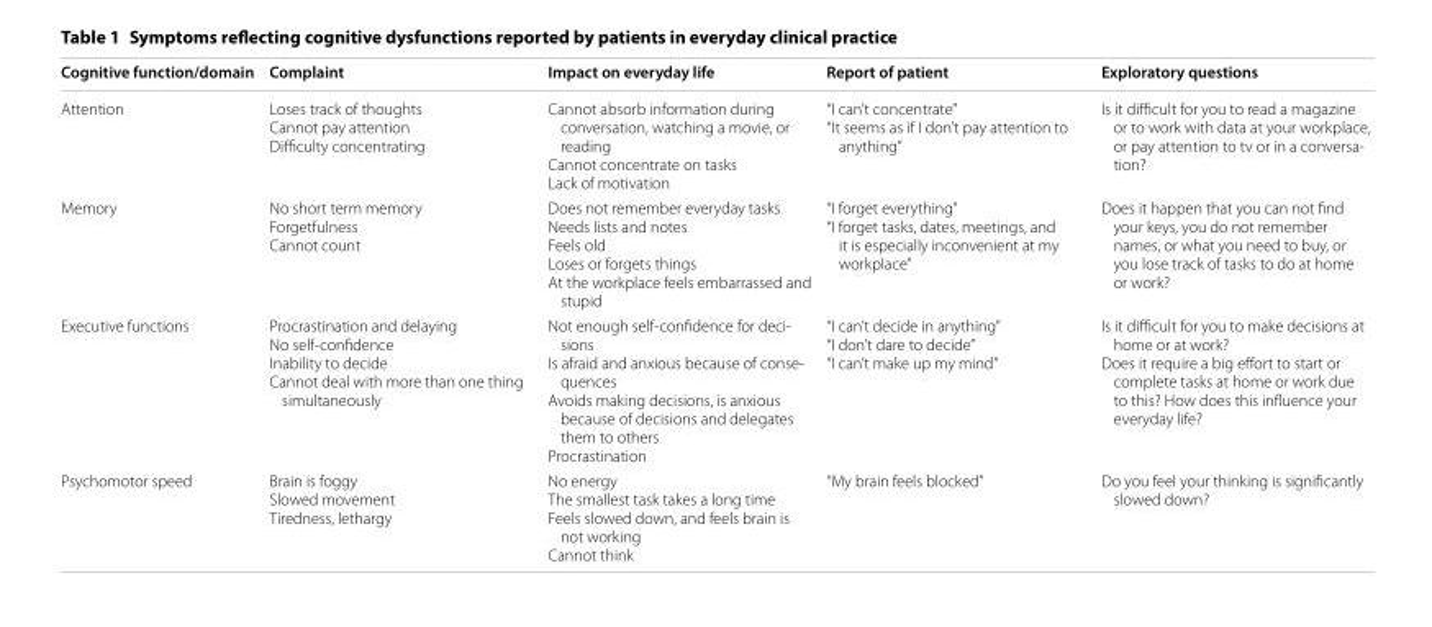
<table><thead><tr><td>Cognitive function/domain</td><td>Complaint</td><td>Impact on everyday life</td><td>Report of patient</td><td>Exploratory questions</td></tr></thead><tbody><tr><td>Attention</td><td>Loses track of thoughts Cannot pay attention Difficulty concentrating</td><td>Cannot absorb information during conversation, watching a movie, or reading Cannot concentrate on tasks Lack of motivation</td><td>“I can’t concentrate” “It seems as if I don’t pay attention to anything”</td><td>Is it difficult for you to read a magazine or to work with data at your workplace, or pay attention to tv or in a conversa- tion?</td></tr><tr><td>Memory</td><td>No short term memory Forgetfulness Cannot count</td><td>Does not remember everyday tasks Needs lists and notes Feels old Loses or forgets things At the workplace feels embarrassed and stupid</td><td>“I forget everything” “I forget tasks, dates, meetings, and it is especially inconvenient at my workplace”</td><td>Does it happen that you can not find your keys, you do not remember names, or what you need to buy, or you lose track of tasks to do at home or work?</td></tr><tr><td>Executive functions</td><td>Procrastination and delaying No self-confidence Inability to decide Cannot deal with more than one thing simultaneously</td><td>Not enough self-confidence for deci- sions Is afraid and anxious because of conse- quences Avoids making decisions, is anxious because of decisions and delegates them to others Procrastination</td><td>“I can’t decide in anything” “I don’t dare to decide” “I can’t make up my mind”</td><td>Is it difficult for you to make decisions at home or at work? Does it require a big effort to start or complete tasks at home or work due to this? How does this influence your everyday life?</td></tr><tr><td>Psychomotor speed</td><td>Brain is foggy Slowed movement Tiredness, lethargy</td><td>No energy The smallest task takes a long time Feels slowed down, and feels brain is not working Cannot think</td><td>“My brain feels blocked”</td><td>Do you feel your thinking is significantly slowed down?</td></tr></tbody></table>